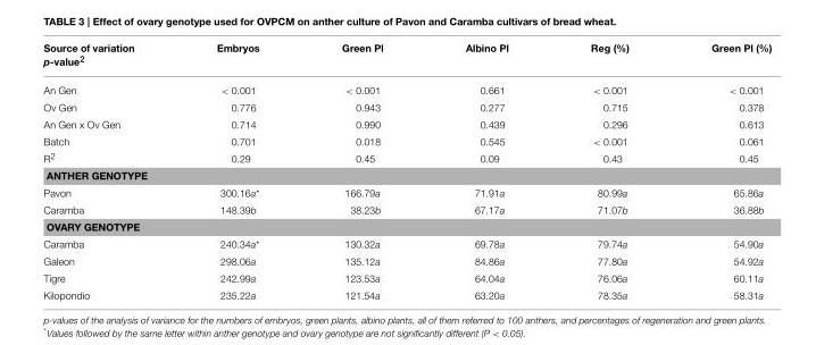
<table><thead><tr><td>Source of variation p-value<sup>2</sup></td><td>Embryos</td><td>Green Pl</td><td>Albino Pl</td><td>Reg (%)</td><td>Green Pl (%)</td></tr></thead><tbody><tr><td>An Gen</td><td>&lt; 0.001</td><td>&lt; 0.001</td><td>0.661</td><td>&lt; 0.001</td><td>&lt; 0.001</td></tr><tr><td>Ov Gen</td><td>0.776</td><td>0.943</td><td>0.277</td><td>0.715</td><td>0.378</td></tr><tr><td>An Gen x Ov Gen</td><td>0.714</td><td>0.990</td><td>0.439</td><td>0.296</td><td>0.613</td></tr><tr><td>Batch</td><td>0.701</td><td>0.018</td><td>0.545</td><td>&lt; 0.001</td><td>0.061</td></tr><tr><td>R<sup>2</sup></td><td>0.29</td><td>0.45</td><td>0.09</td><td>0.43</td><td>0.45</td></tr><tr><td colspan="6">ANTHER GENOTYPE</td></tr><tr><td>Pavon</td><td>300.16a*</td><td>166.79a</td><td>71.91a</td><td>80.99a</td><td>65.86a</td></tr><tr><td>Caramba</td><td>148.39b</td><td>38.23b</td><td>67.17a</td><td>71.07b</td><td>36.88b</td></tr><tr><td colspan="6">OVARY GENOTYPE</td></tr><tr><td>Caramba</td><td>240.34a*</td><td>130.32a</td><td>69.78a</td><td>79.74a</td><td>54.90a</td></tr><tr><td>Galeon</td><td>298.06a</td><td>135.12a</td><td>84.86a</td><td>77.80a</td><td>54.92a</td></tr><tr><td>Tigre</td><td>242.99a</td><td>123.53a</td><td>64.04a</td><td>76.06a</td><td>60.11a</td></tr><tr><td>Kilopondio</td><td>235.22a</td><td>121.54a</td><td>63.20a</td><td>78.35a</td><td>58.31a</td></tr></tbody></table>